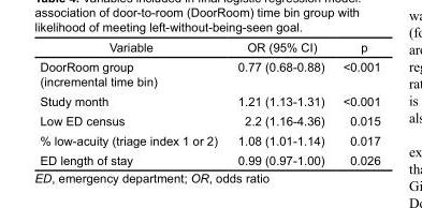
<table><thead><tr><td>Variable</td><td>OR (95% CI)</td><td>p</td></tr></thead><tbody><tr><td>DoorRoom group (incremental time bin)</td><td>0.77 (0.68-0.88)</td><td>&lt;0.001</td></tr><tr><td>Study month</td><td>1.21 (1.13-1.31)</td><td>&lt;0.001</td></tr><tr><td>Low ED census</td><td>2.2 (1.16-4.36)</td><td>0.015</td></tr><tr><td>% low-acuity (triage index 1 or 2)</td><td>1.08 (1.01-1.14)</td><td>0.017</td></tr><tr><td>ED length of stay</td><td>0.99 (0.97-1.00)</td><td>0.026</td></tr></tbody></table>